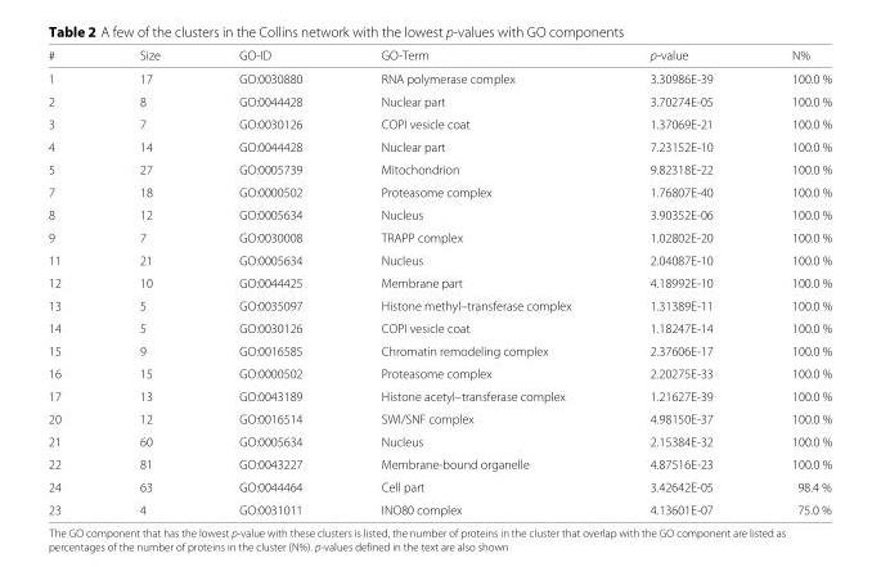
<table><thead><tr><td>#</td><td>Size</td><td>GO-ID</td><td>GO-Term</td><td>p-value</td><td>N%</td></tr></thead><tbody><tr><td>1</td><td>17</td><td>GO:0030880</td><td>RNA polymerase complex</td><td>3.30986E-39</td><td>100.0 %</td></tr><tr><td>2</td><td>8</td><td>GO:0044428</td><td>Nuclear part</td><td>3.70274E-05</td><td>100.0 %</td></tr><tr><td>3</td><td>7</td><td>GO:0030126</td><td>COPI vesicle coat</td><td>1.37069E-21</td><td>100.0 %</td></tr><tr><td>4</td><td>14</td><td>GO:0044428</td><td>Nuclear part</td><td>7.23152E-10</td><td>100.0 %</td></tr><tr><td>5</td><td>27</td><td>GO:0005739</td><td>Mitochondrion</td><td>9.82318E-22</td><td>100.0 %</td></tr><tr><td>7</td><td>18</td><td>GO:0000502</td><td>Proteasome complex</td><td>1.76807E-40</td><td>100.0 %</td></tr><tr><td>8</td><td>12</td><td>GO:0005634</td><td>Nucleus</td><td>3.90352E-06</td><td>100.0 %</td></tr><tr><td>9</td><td>7</td><td>GO:0030008</td><td>TRAPP complex</td><td>1.02802E-20</td><td>100.0 %</td></tr><tr><td>11</td><td>21</td><td>GO:0005634</td><td>Nucleus</td><td>2.04087E-10</td><td>100.0 %</td></tr><tr><td>12</td><td>10</td><td>GO:0044425</td><td>Membrane part</td><td>4.18992E-10</td><td>100.0 %</td></tr><tr><td>13</td><td>5</td><td>GO:0035097</td><td>Histone methyl–transferase complex</td><td>1.31389E-11</td><td>100.0 %</td></tr><tr><td>14</td><td>5</td><td>GO:0030126</td><td>COPI vesicle coat</td><td>1.18247E-14</td><td>100.0 %</td></tr><tr><td>15</td><td>9</td><td>GO:0016585</td><td>Chromatin remodeling complex</td><td>2.37606E-17</td><td>100.0 %</td></tr><tr><td>16</td><td>15</td><td>GO:0000502</td><td>Proteasome complex</td><td>2.20275E-33</td><td>100.0 %</td></tr><tr><td>17</td><td>13</td><td>GO:0043189</td><td>Histone acetyl–transferase complex</td><td>1.21627E-39</td><td>100.0 %</td></tr><tr><td>20</td><td>12</td><td>GO:0016514</td><td>SWI/SNF complex</td><td>4.98150E-37</td><td>100.0 %</td></tr><tr><td>21</td><td>60</td><td>GO:0005634</td><td>Nucleus</td><td>2.15384E-32</td><td>100.0 %</td></tr><tr><td>22</td><td>81</td><td>GO:0043227</td><td>Membrane-bound organelle</td><td>4.87516E-23</td><td>100.0 %</td></tr><tr><td>24</td><td>63</td><td>GO:0044464</td><td>Cell part</td><td>3.42642E-05</td><td>98.4 %</td></tr><tr><td>23</td><td>4</td><td>GO:0031011</td><td>INO80 complex</td><td>4.13601E-07</td><td>75.0 %</td></tr></tbody></table>